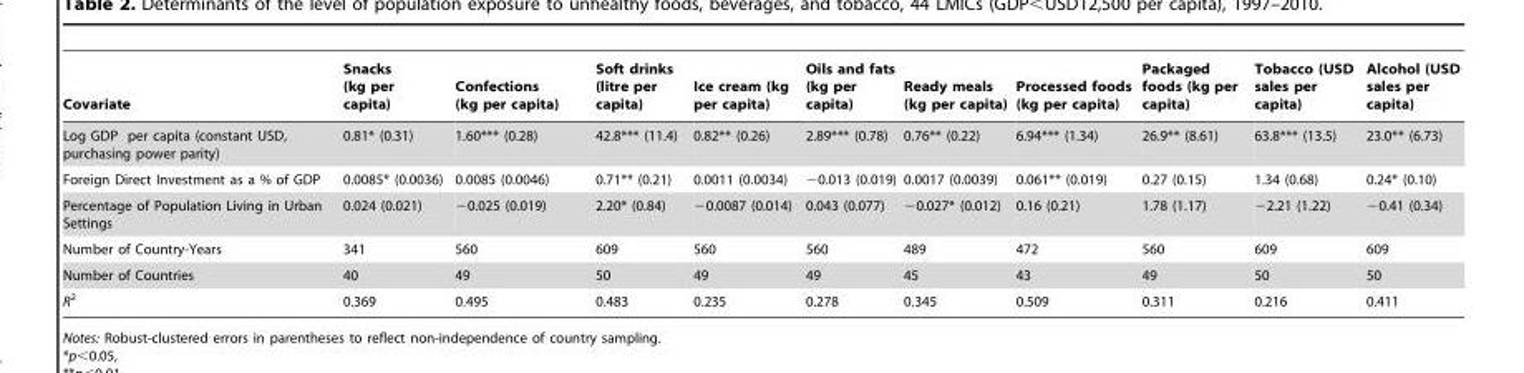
<table><thead><tr><td>Covariate</td><td>Snacks (kg per capita)</td><td>Confections (kg per capita)</td><td>Soft drinks (litre per capita)</td><td>Ice cream (kg per capita)</td><td>Oils and fats (kg per capita)</td><td>Ready meals (kg per capita)</td><td>Processed foods (kg per capita)</td><td>Packaged foods (kg per capita)</td><td>Tobacco (USD sales per capita)</td><td>Alcohol (USD sales per capita)</td></tr></thead><tbody><tr><td>Log GDP per capita (constant USD, purchasing power parity)</td><td>0.81* (0.31)</td><td>1.60*** (0.28)</td><td>42.8*** (11.4)</td><td>0.82** (0.26)</td><td>2.89*** (0.78)</td><td>0.76** (0.22)</td><td>6.94*** (1.34)</td><td>26.9** (8.61)</td><td>63.8*** (13.5)</td><td>23.0** (6.73)</td></tr><tr><td>Foreign Direct Investment as a % of GDP</td><td>0.0085* (0.0036)</td><td>0.0085 (0.0046)</td><td>0.71** (0.21)</td><td>0.0011 (0.0034)</td><td>−0.013 (0.019)</td><td>0.0017 (0.0039)</td><td>0.061** (0.019)</td><td>0.27 (0.15)</td><td>1.34 (0.68)</td><td>0.24* (0.10)</td></tr><tr><td>Percentage of Population Living in Urban Settings</td><td>0.024 (0.021)</td><td>−0.025 (0.019)</td><td>2.20* (0.84)</td><td>−0.0087 (0.014)</td><td>0.043 (0.077)</td><td>−0.027* (0.012)</td><td>0.16 (0.21)</td><td>1.78 (1.17)</td><td>−2.21 (1.22)</td><td>−0.41 (0.34)</td></tr><tr><td>Number of Country-Years</td><td>341</td><td>560</td><td>609</td><td>560</td><td>560</td><td>489</td><td>472</td><td>560</td><td>609</td><td>609</td></tr><tr><td>Number of Countries</td><td>40</td><td>49</td><td>50</td><td>49</td><td>49</td><td>45</td><td>43</td><td>49</td><td>50</td><td>50</td></tr><tr><td>R<sup>2</sup></td><td>0.369</td><td>0.495</td><td>0.483</td><td>0.235</td><td>0.278</td><td>0.345</td><td>0.509</td><td>0.311</td><td>0.216</td><td>0.411</td></tr></tbody></table>